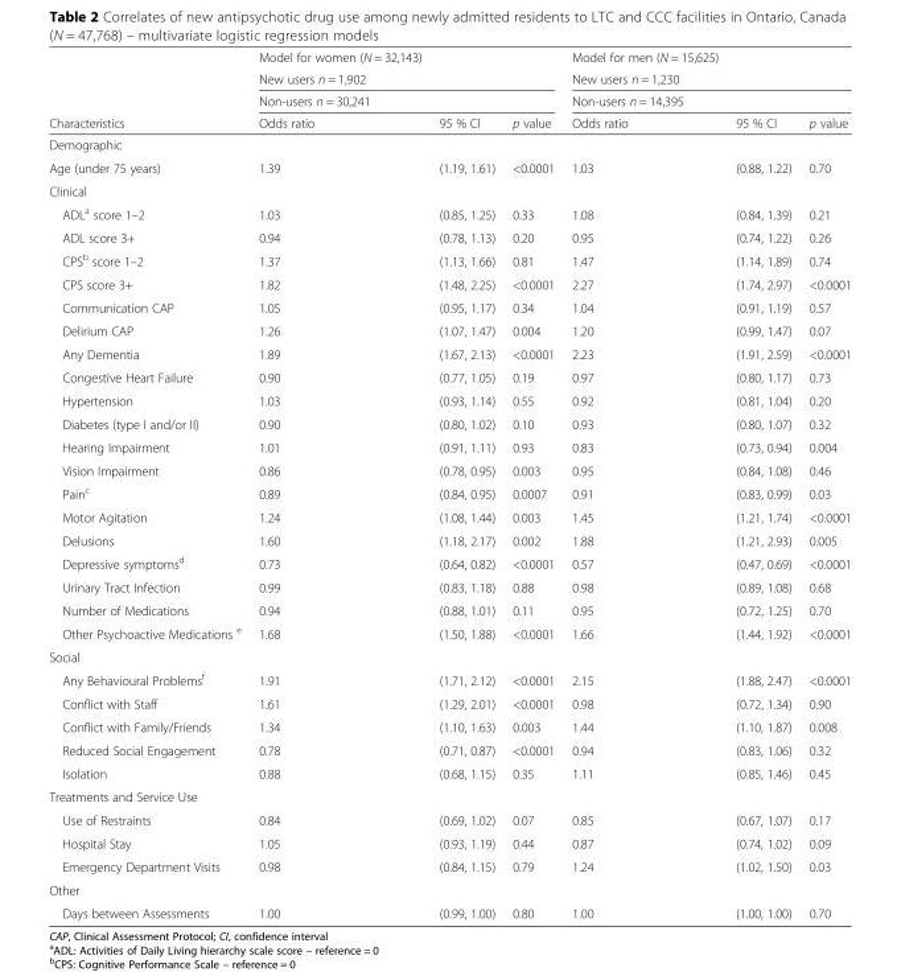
<table><thead><tr><td rowspan="4">Characteristics</td><td>Model for women (N = 32,143)</td><td></td><td></td><td>Model for men (N = 15,625)</td><td></td><td></td></tr><tr><td rowspan="2" colspan="3">New users n = 1,902 Non-users n = 30,241</td><td rowspan="2" colspan="3">New users n = 1,230 Non-users n = 14,395</td></tr><tr></tr><tr><td>Odds ratio</td><td>95 % CI</td><td>p value</td><td>Odds ratio</td><td>95 % CI</td><td>p value</td></tr></thead><tbody><tr><td colspan="7">Demographic</td></tr><tr><td>Age (under 75 years)</td><td>1.39</td><td>(1.19, 1.61)</td><td>&lt;0.0001</td><td>1.03</td><td>(0.88, 1.22)</td><td>0.70</td></tr><tr><td colspan="7">Clinical</td></tr><tr><td>ADL<sup>a</sup> score 1–2</td><td>1.03</td><td>(0.85, 1.25)</td><td>0.33</td><td>1.08</td><td>(0.84, 1.39)</td><td>0.21</td></tr><tr><td>ADL score 3+</td><td>0.94</td><td>(0.78, 1.13)</td><td>0.20</td><td>0.95</td><td>(0.74, 1.22)</td><td>0.26</td></tr><tr><td>CPS<sup>b</sup> score 1–2</td><td>1.37</td><td>(1.13, 1.66)</td><td>0.81</td><td>1.47</td><td>(1.14, 1.89)</td><td>0.74</td></tr><tr><td>CPS score 3+</td><td>1.82</td><td>(1.48, 2.25)</td><td>&lt;0.0001</td><td>2.27</td><td>(1.74, 2.97)</td><td>&lt;0.0001</td></tr><tr><td>Communication CAP</td><td>1.05</td><td>(0.95, 1.17)</td><td>0.34</td><td>1.04</td><td>(0.91, 1.19)</td><td>0.57</td></tr><tr><td>Delirium CAP</td><td>1.26</td><td>(1.07, 1.47)</td><td>0.004</td><td>1.20</td><td>(0.99, 1.47)</td><td>0.07</td></tr><tr><td>Any Dementia</td><td>1.89</td><td>(1.67, 2.13)</td><td>&lt;0.0001</td><td>2.23</td><td>(1.91, 2.59)</td><td>&lt;0.0001</td></tr><tr><td>Congestive Heart Failure</td><td>0.90</td><td>(0.77, 1.05)</td><td>0.19</td><td>0.97</td><td>(0.80, 1.17)</td><td>0.73</td></tr><tr><td>Hypertension</td><td>1.03</td><td>(0.93, 1.14)</td><td>0.55</td><td>0.92</td><td>(0.81, 1.04)</td><td>0.20</td></tr><tr><td>Diabetes (type I and/or II)</td><td>0.90</td><td>(0.80, 1.02)</td><td>0.10</td><td>0.93</td><td>(0.80, 1.07)</td><td>0.32</td></tr><tr><td>Hearing Impairment</td><td>1.01</td><td>(0.91, 1.11)</td><td>0.93</td><td>0.83</td><td>(0.73, 0.94)</td><td>0.004</td></tr><tr><td>Vision Impairment</td><td>0.86</td><td>(0.78, 0.95)</td><td>0.003</td><td>0.95</td><td>(0.84, 1.08)</td><td>0.46</td></tr><tr><td>Pain<sup>c</sup></td><td>0.89</td><td>(0.84, 0.95)</td><td>0.0007</td><td>0.91</td><td>(0.83, 0.99)</td><td>0.03</td></tr><tr><td>Motor Agitation</td><td>1.24</td><td>(1.08, 1.44)</td><td>0.003</td><td>1.45</td><td>(1.21, 1.74)</td><td>&lt;0.0001</td></tr><tr><td>Delusions</td><td>1.60</td><td>(1.18, 2.17)</td><td>0.002</td><td>1.88</td><td>(1.21, 2.93)</td><td>0.005</td></tr><tr><td>Depressive symptoms<sup>d</sup></td><td>0.73</td><td>(0.64, 0.82)</td><td>&lt;0.0001</td><td>0.57</td><td>(0.47, 0.69)</td><td>&lt;0.0001</td></tr><tr><td>Urinary Tract Infection</td><td>0.99</td><td>(0.83, 1.18)</td><td>0.88</td><td>0.98</td><td>(0.89, 1.08)</td><td>0.68</td></tr><tr><td>Number of Medications</td><td>0.94</td><td>(0.88, 1.01)</td><td>0.11</td><td>0.95</td><td>(0.72, 1.25)</td><td>0.70</td></tr><tr><td>Other Psychoactive Medications <sup>e</sup></td><td>1.68</td><td>(1.50, 1.88)</td><td>&lt;0.0001</td><td>1.66</td><td>(1.44, 1.92)</td><td>&lt;0.0001</td></tr><tr><td colspan="7">Social</td></tr><tr><td>Any Behavioural Problems<sup>f</sup></td><td>1.91</td><td>(1.71, 2.12)</td><td>&lt;0.0001</td><td>2.15</td><td>(1.88, 2.47)</td><td>&lt;0.0001</td></tr><tr><td>Conflict with Staff</td><td>1.61</td><td>(1.29, 2.01)</td><td>&lt;0.0001</td><td>0.98</td><td>(0.72, 1.34)</td><td>0.90</td></tr><tr><td>Conflict with Family/Friends</td><td>1.34</td><td>(1.10, 1.63)</td><td>0.003</td><td>1.44</td><td>(1.10, 1.87)</td><td>0.008</td></tr><tr><td>Reduced Social Engagement</td><td>0.78</td><td>(0.71, 0.87)</td><td>&lt;0.0001</td><td>0.94</td><td>(0.83, 1.06)</td><td>0.32</td></tr><tr><td>Isolation</td><td>0.88</td><td>(0.68, 1.15)</td><td>0.35</td><td>1.11</td><td>(0.85, 1.46)</td><td>0.45</td></tr><tr><td colspan="7">Treatments and Service Use</td></tr><tr><td>Use of Restraints</td><td>0.84</td><td>(0.69, 1.02)</td><td>0.07</td><td>0.85</td><td>(0.67, 1.07)</td><td>0.17</td></tr><tr><td>Hospital Stay</td><td>1.05</td><td>(0.93, 1.19)</td><td>0.44</td><td>0.87</td><td>(0.74, 1.02)</td><td>0.09</td></tr><tr><td>Emergency Department Visits</td><td>0.98</td><td>(0.84, 1.15)</td><td>0.79</td><td>1.24</td><td>(1.02, 1.50)</td><td>0.03</td></tr><tr><td colspan="7">Other</td></tr><tr><td>Days between Assessments</td><td>1.00</td><td>(0.99, 1.00)</td><td>0.80</td><td>1.00</td><td>(1.00, 1.00)</td><td>0.70</td></tr></tbody></table>